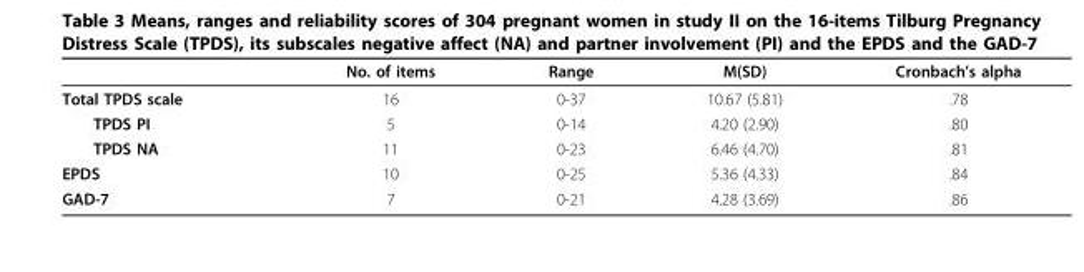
<table><thead><tr><td></td><td>No. of items</td><td>Range</td><td>M(SD)</td><td>Cronbach’s alpha</td></tr></thead><tbody><tr><td>Total TPDS scale</td><td>16</td><td>0-37</td><td>10.67 (5.81)</td><td>.78</td></tr><tr><td>TPDS PI</td><td>5</td><td>0-14</td><td>4.20 (2.90)</td><td>.80</td></tr><tr><td>TPDS NA</td><td>11</td><td>0-23</td><td>6.46 (4.70)</td><td>.81</td></tr><tr><td>EPDS</td><td>10</td><td>0-25</td><td>5.36 (4.33)</td><td>.84</td></tr><tr><td>GAD-7</td><td>7</td><td>0-21</td><td>4.28 (3.69)</td><td>.86</td></tr></tbody></table>